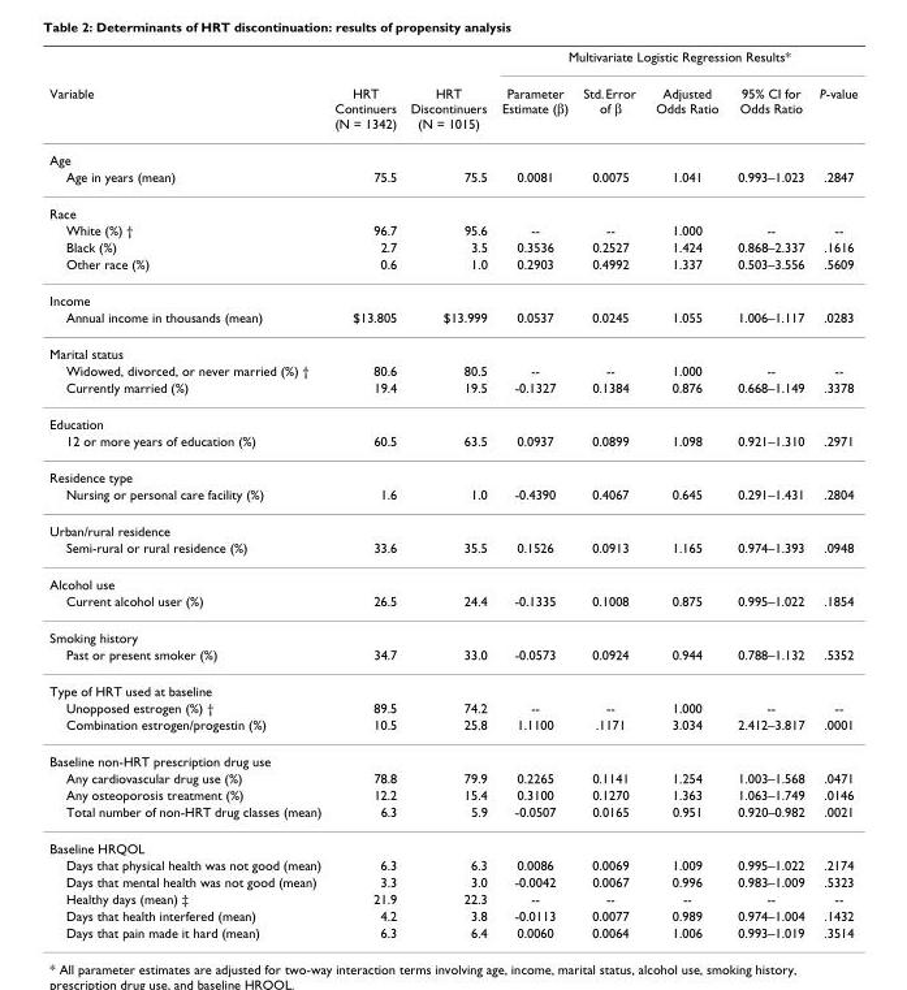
<table><thead><tr><td rowspan="2">Variable</td><td rowspan="2">HRT Continuers (N = 1342)</td><td rowspan="2">HRT Discontinuers (N = 1015)</td><td colspan="5">Multivariate Logistic Regression Results*</td></tr><tr><td>Parameter Estimate (β)</td><td>Std. Error of β</td><td>Adjusted Odds Ratio</td><td>95% CI for Odds Ratio</td><td>P-value</td></tr></thead><tbody><tr><td colspan="8">Age</td></tr><tr><td>Age in years (mean)</td><td>75.5</td><td>75.5</td><td>0.0081</td><td>0.0075</td><td>1.041</td><td>0.993–1.023</td><td>.2847</td></tr><tr><td colspan="8">Race</td></tr><tr><td>White (%) †</td><td>96.7</td><td>95.6</td><td>--</td><td>--</td><td>1.000</td><td>--</td><td>--</td></tr><tr><td>Black (%)</td><td>2.7</td><td>3.5</td><td>0.3536</td><td>0.2527</td><td>1.424</td><td>0.868–2.337</td><td>.1616</td></tr><tr><td>Other race (%)</td><td>0.6</td><td>1.0</td><td>0.2903</td><td>0.4992</td><td>1.337</td><td>0.503–3.556</td><td>.5609</td></tr><tr><td colspan="8">Income</td></tr><tr><td>Annual income in thousands (mean)</td><td>$13.805</td><td>$13.999</td><td>0.0537</td><td>0.0245</td><td>1.055</td><td>1.006–1.117</td><td>.0283</td></tr><tr><td colspan="8">Marital status</td></tr><tr><td>Widowed, divorced, or never married (%) †</td><td>80.6</td><td>80.5</td><td>--</td><td>--</td><td>1.000</td><td>--</td><td>--</td></tr><tr><td>Currently married (%)</td><td>19.4</td><td>19.5</td><td>-0.1327</td><td>0.1384</td><td>0.876</td><td>0.668–1.149</td><td>.3378</td></tr><tr><td colspan="8">Education</td></tr><tr><td>12 or more years of education (%)</td><td>60.5</td><td>63.5</td><td>0.0937</td><td>0.0899</td><td>1.098</td><td>0.921–1.310</td><td>.2971</td></tr><tr><td colspan="8">Residence type</td></tr><tr><td>Nursing or personal care facility (%)</td><td>1.6</td><td>1.0</td><td>-0.4390</td><td>0.4067</td><td>0.645</td><td>0.291–1.431</td><td>.2804</td></tr><tr><td colspan="8">Urban/rural residence</td></tr><tr><td>Semi-rural or rural residence (%)</td><td>33.6</td><td>35.5</td><td>0.1526</td><td>0.0913</td><td>1.165</td><td>0.974–1.393</td><td>.0948</td></tr><tr><td colspan="8">Alcohol use</td></tr><tr><td>Current alcohol user (%)</td><td>26.5</td><td>24.4</td><td>-0.1335</td><td>0.1008</td><td>0.875</td><td>0.995–1.022</td><td>.1854</td></tr><tr><td colspan="8">Smoking history</td></tr><tr><td>Past or present smoker (%)</td><td>34.7</td><td>33.0</td><td>-0.0573</td><td>0.0924</td><td>0.944</td><td>0.788–1.132</td><td>.5352</td></tr><tr><td colspan="8">Type of HRT used at baseline</td></tr><tr><td>Unopposed estrogen (%) †</td><td>89.5</td><td>74.2</td><td>--</td><td>--</td><td>1.000</td><td>--</td><td>--</td></tr><tr><td>Combination estrogen/progestin (%)</td><td>10.5</td><td>25.8</td><td>1.1100</td><td>.1171</td><td>3.034</td><td>2.412–3.817</td><td>.0001</td></tr><tr><td colspan="8">Baseline non-HRT prescription drug use</td></tr><tr><td>Any cardiovascular drug use (%)</td><td>78.8</td><td>79.9</td><td>0.2265</td><td>0.1141</td><td>1.254</td><td>1.003–1.568</td><td>.0471</td></tr><tr><td>Any osteoporosis treatment (%)</td><td>12.2</td><td>15.4</td><td>0.3100</td><td>0.1270</td><td>1.363</td><td>1.063–1.749</td><td>.0146</td></tr><tr><td>Total number of non-HRT drug classes (mean)</td><td>6.3</td><td>5.9</td><td>-0.0507</td><td>0.0165</td><td>0.951</td><td>0.920–0.982</td><td>.0021</td></tr><tr><td colspan="8">Baseline HRQOL</td></tr><tr><td>Days that physical health was not good (mean)</td><td>6.3</td><td>6.3</td><td>0.0086</td><td>0.0069</td><td>1.009</td><td>0.995–1.022</td><td>.2174</td></tr><tr><td>Days that mental health was not good (mean)</td><td>3.3</td><td>3.0</td><td>-0.0042</td><td>0.0067</td><td>0.996</td><td>0.983–1.009</td><td>.5323</td></tr><tr><td>Healthy days (mean) ‡</td><td>21.9</td><td>22.3</td><td>--</td><td>--</td><td>--</td><td>--</td><td>--</td></tr><tr><td>Days that health interfered (mean)</td><td>4.2</td><td>3.8</td><td>-0.0113</td><td>0.0077</td><td>0.989</td><td>0.974–1.004</td><td>.1432</td></tr><tr><td>Days that pain made it hard (mean)</td><td>6.3</td><td>6.4</td><td>0.0060</td><td>0.0064</td><td>1.006</td><td>0.993–1.019</td><td>.3514</td></tr></tbody></table>